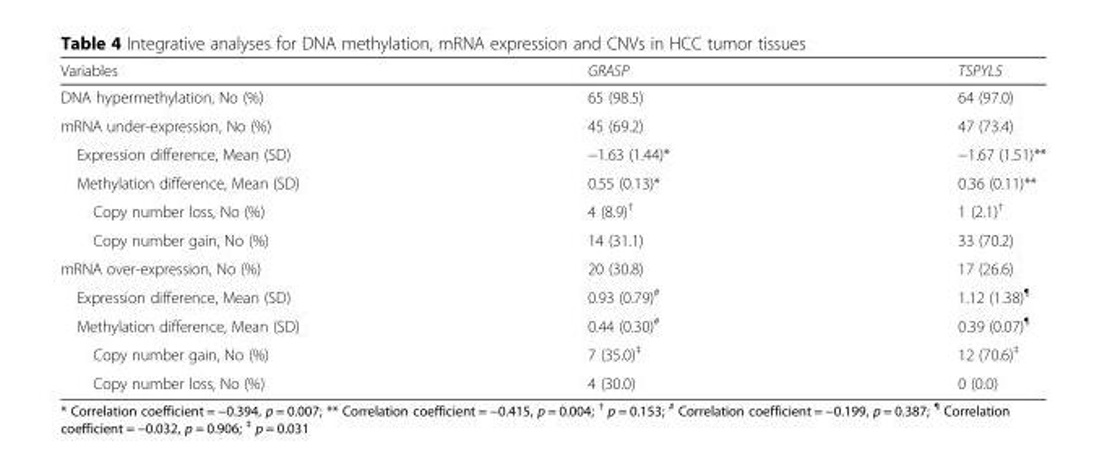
<table><thead><tr><td>Variables</td><td>GRASP</td><td>TSPYL5</td></tr></thead><tbody><tr><td>DNA hypermethylation, No (%)</td><td>65 (98.5)</td><td>64 (97.0)</td></tr><tr><td>mRNA under-expression, No (%)</td><td>45 (69.2)</td><td>47 (73.4)</td></tr><tr><td>Expression difference, Mean (SD)</td><td>−1.63 (1.44)*</td><td>−1.67 (1.51)**</td></tr><tr><td>Methylation difference, Mean (SD)</td><td>0.55 (0.13)*</td><td>0.36 (0.11)**</td></tr><tr><td>Copy number loss, No (%)</td><td>4 (8.9)<sup>†</sup></td><td>1 (2.1)<sup>†</sup></td></tr><tr><td>Copy number gain, No (%)</td><td>14 (31.1)</td><td>33 (70.2)</td></tr><tr><td>mRNA over-expression, No (%)</td><td>20 (30.8)</td><td>17 (26.6)</td></tr><tr><td>Expression difference, Mean (SD)</td><td>0.93 (0.79)<sup>#</sup></td><td>1.12 (1.38)<sup>¶</sup></td></tr><tr><td>Methylation difference, Mean (SD)</td><td>0.44 (0.30)<sup>#</sup></td><td>0.39 (0.07)<sup>¶</sup></td></tr><tr><td>Copy number gain, No (%)</td><td>7 (35.0)<sup>‡</sup></td><td>12 (70.6)<sup>‡</sup></td></tr><tr><td>Copy number loss, No (%)</td><td>4 (30.0)</td><td>0 (0.0)</td></tr></tbody></table>